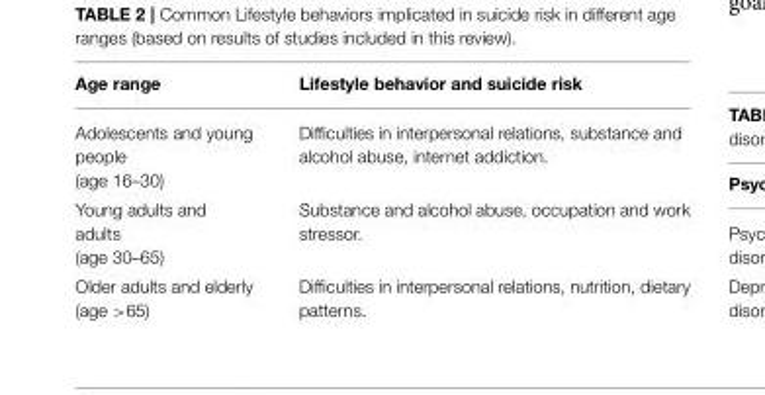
<table><thead><tr><td>Age range</td><td>Lifestyle behavior and suicide risk</td></tr></thead><tbody><tr><td>Adolescents and young people (age 16–30)</td><td>Difficulties in interpersonal relations, substance and alcohol abuse, internet addiction.</td></tr><tr><td>Young adults and adults (age 30–65)</td><td>Substance and alcohol abuse, occupation and work stressor.</td></tr><tr><td>Older adults and elderly (age &gt;65)</td><td>Difficulties in interpersonal relations, nutrition, dietary patterns.</td></tr></tbody></table>